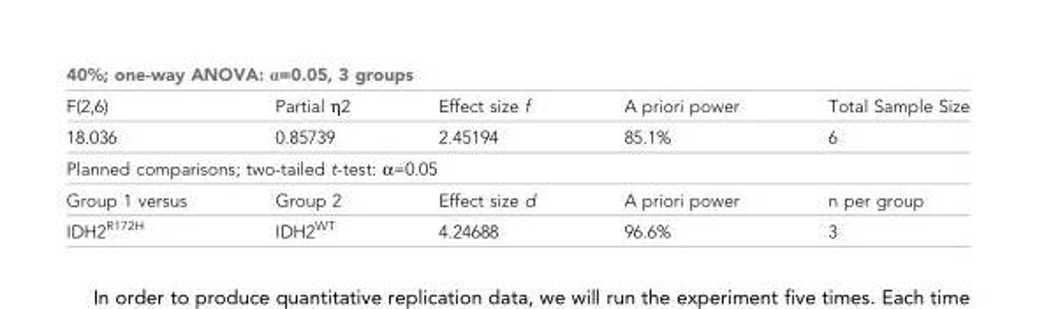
<table><thead><tr><td colspan="5">40%; one-way ANOVA: α=0.05, 3 groups</td></tr><tr><td>F(2,6)</td><td>Partial η2</td><td>Effect size f</td><td>A priori power</td><td>Total Sample Size</td></tr></thead><tbody><tr><td>18.036</td><td>0.85739</td><td>2.45194</td><td>85.1%</td><td>6</td></tr><tr><td colspan="5">Planned comparisons; two-tailed t-test: α=0.05</td></tr><tr><td>Group 1 versus</td><td>Group 2</td><td>Effect size d</td><td>A priori power</td><td>n per group</td></tr><tr><td>IDH2<sup>R172H</sup></td><td>IDH2<sup>WT</sup></td><td>4.24688</td><td>96.6%</td><td>3</td></tr></tbody></table>